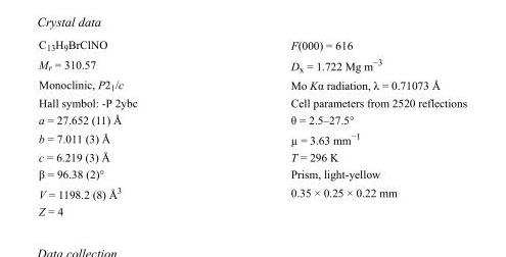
<table><tbody><tr><td>C<sub>13</sub>H<sub>9</sub>BrClNO</td><td>F(000) = 616</td></tr><tr><td>M<sub>r</sub> = 310.57</td><td>D<sub>x</sub> = 1.722 Mg m<sup>−3</sup></td></tr><tr><td>Monoclinic, P2<sub>1</sub>/c</td><td>Mo Kα radiation, λ = 0.71073 Å</td></tr><tr><td>Hall symbol: -P 2ybc</td><td>Cell parameters from 2520 reflections</td></tr><tr><td>a = 27.652 (11) Å</td><td>θ = 2.5–27.5°</td></tr><tr><td>b = 7.011 (3) Å</td><td>µ = 3.63 mm<sup>−1</sup></td></tr><tr><td>c = 6.219 (3) Å</td><td>T = 296 K</td></tr><tr><td>β = 96.38 (2)°</td><td>Prism, light-yellow</td></tr><tr><td>V = 1198.2 (8) Å<sup>3</sup></td><td>0.35 × 0.25 × 0.22 mm</td></tr><tr><td>Z = 4</td><td></td></tr></tbody></table>